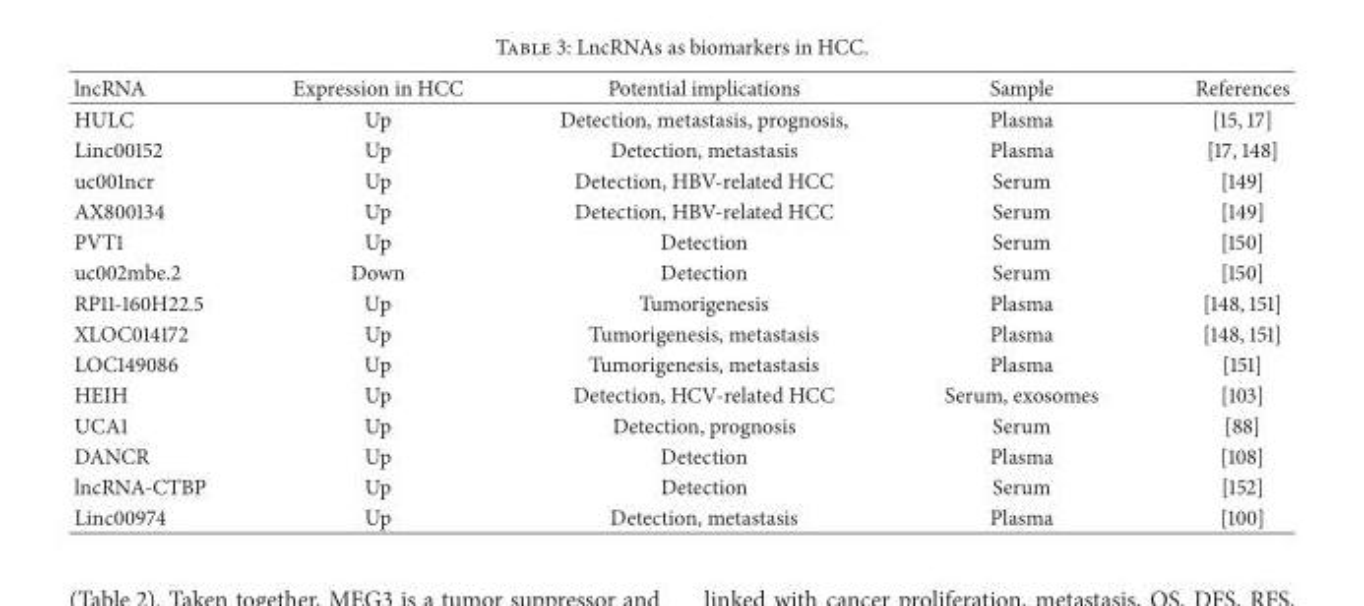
<table><thead><tr><td>lncRNA</td><td>Expression in HCC</td><td>Potential implications</td><td>Sample</td><td>References</td></tr></thead><tbody><tr><td>HULC</td><td>Up</td><td>Detection, metastasis, prognosis,</td><td>Plasma</td><td>[15, 17]</td></tr><tr><td>Linc00152</td><td>Up</td><td>Detection, metastasis</td><td>Plasma</td><td>[17, 148]</td></tr><tr><td>uc001ncr</td><td>Up</td><td>Detection, HBV-related HCC</td><td>Serum</td><td>[149]</td></tr><tr><td>AX800134</td><td>Up</td><td>Detection, HBV-related HCC</td><td>Serum</td><td>[149]</td></tr><tr><td>PVT1</td><td>Up</td><td>Detection</td><td>Serum</td><td>[150]</td></tr><tr><td>uc002mbe.2</td><td>Down</td><td>Detection</td><td>Serum</td><td>[150]</td></tr><tr><td>RP11-160H22.5</td><td>Up</td><td>Tumorigenesis</td><td>Plasma</td><td>[148, 151]</td></tr><tr><td>XLOC014172</td><td>Up</td><td>Tumorigenesis, metastasis</td><td>Plasma</td><td>[148, 151]</td></tr><tr><td>LOC149086</td><td>Up</td><td>Tumorigenesis, metastasis</td><td>Plasma</td><td>[151]</td></tr><tr><td>HEIH</td><td>Up</td><td>Detection, HCV-related HCC</td><td>Serum, exosomes</td><td>[103]</td></tr><tr><td>UCA1</td><td>Up</td><td>Detection, prognosis</td><td>Serum</td><td>[88]</td></tr><tr><td>DANCR</td><td>Up</td><td>Detection</td><td>Plasma</td><td>[108]</td></tr><tr><td>lncRNA-CTBP</td><td>Up</td><td>Detection</td><td>Serum</td><td>[152]</td></tr><tr><td>Linc00974</td><td>Up</td><td>Detection, metastasis</td><td>Plasma</td><td>[100]</td></tr></tbody></table>